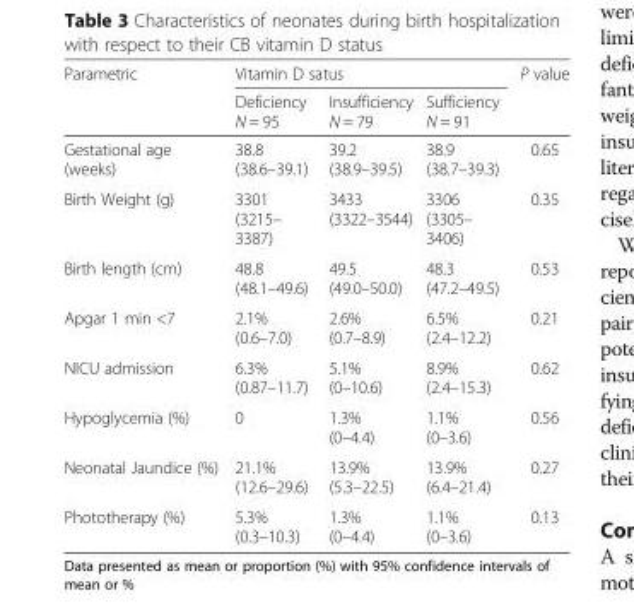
<table><thead><tr><td rowspan="2">Parametric</td><td colspan="3">Vitamin D satus</td><td rowspan="2">P value</td></tr><tr><td>Deficiency N = 95</td><td>Insufficiency N = 79</td><td>Sufficiency N = 91</td></tr></thead><tbody><tr><td>Gestational age (weeks)</td><td>38.8 (38.6–39.1)</td><td>39.2 (38.9–39.5)</td><td>38.9 (38.7–39.3)</td><td>0.65</td></tr><tr><td>Birth Weight (g)</td><td>3301 (3215– 3387)</td><td>3433 (3322–3544)</td><td>3306 (3305– 3406)</td><td>0.35</td></tr><tr><td>Birth length (cm)</td><td>48.8 (48.1–49.6)</td><td>49.5 (49.0–50.0)</td><td>48.3 (47.2–49.5)</td><td>0.53</td></tr><tr><td>Apgar 1 min &lt;7</td><td>2.1% (0.6–7.0)</td><td>2.6% (0.7–8.9)</td><td>6.5% (2.4–12.2)</td><td>0.21</td></tr><tr><td>NICU admission</td><td>6.3% (0.87–11.7)</td><td>5.1% (0–10.6)</td><td>8.9% (2.4–15.3)</td><td>0.62</td></tr><tr><td>Hypoglycemia (%)</td><td>0</td><td>1.3% (0–4.4)</td><td>1.1% (0–3.6)</td><td>0.56</td></tr><tr><td>Neonatal Jaundice (%)</td><td>21.1% (12.6–29.6)</td><td>13.9% (5.3–22.5)</td><td>13.9% (6.4–21.4)</td><td>0.27</td></tr><tr><td>Phototherapy (%)</td><td>5.3% (0.3–10.3)</td><td>1.3% (0–4.4)</td><td>1.1% (0–3.6)</td><td>0.13</td></tr></tbody></table>